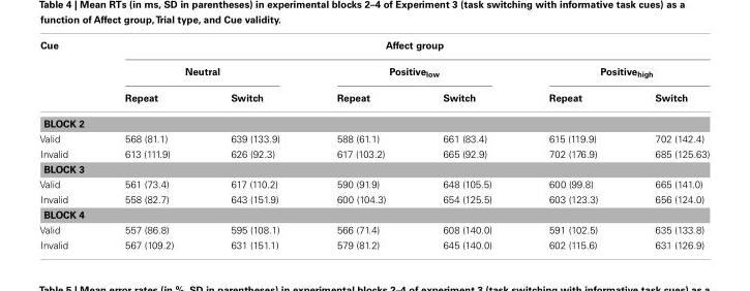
<table><thead><tr><td rowspan="3">Cue</td><td colspan="6">Affect group</td></tr><tr><td colspan="2">Neutral</td><td colspan="2">Positive<sub>low</sub></td><td colspan="2">Positive<sub>high</sub></td></tr><tr><td>Repeat</td><td>Switch</td><td>Repeat</td><td>Switch</td><td>Repeat</td><td>Switch</td></tr></thead><tbody><tr><td colspan="7">BLOCK 2</td></tr><tr><td>Valid</td><td>568 (81.1)</td><td>639 (133.9)</td><td>588 (61.1)</td><td>661 (83.4)</td><td>615 (119.9)</td><td>702 (142.4)</td></tr><tr><td>Invalid</td><td>613 (111.9)</td><td>626 (92.3)</td><td>617 (103.2)</td><td>665 (92.9)</td><td>702 (176.9)</td><td>685 (125.63)</td></tr><tr><td colspan="7">BLOCK 3</td></tr><tr><td>Valid</td><td>561 (73.4)</td><td>617 (110.2)</td><td>590 (91.9)</td><td>648 (105.5)</td><td>600 (99.8)</td><td>665 (141.0)</td></tr><tr><td>Invalid</td><td>558 (82.7)</td><td>643 (151.9)</td><td>600 (104.3)</td><td>654 (125.5)</td><td>603 (123.3)</td><td>656 (124.0)</td></tr><tr><td colspan="7">BLOCK 4</td></tr><tr><td>Valid</td><td>557 (86.8)</td><td>595 (108.1)</td><td>566 (71.4)</td><td>608 (140.0)</td><td>591 (102.5)</td><td>635 (133.8)</td></tr><tr><td>Invalid</td><td>567 (109.2)</td><td>631 (151.1)</td><td>579 (81.2)</td><td>645 (140.0)</td><td>602 (115.6)</td><td>631 (126.9)</td></tr></tbody></table>